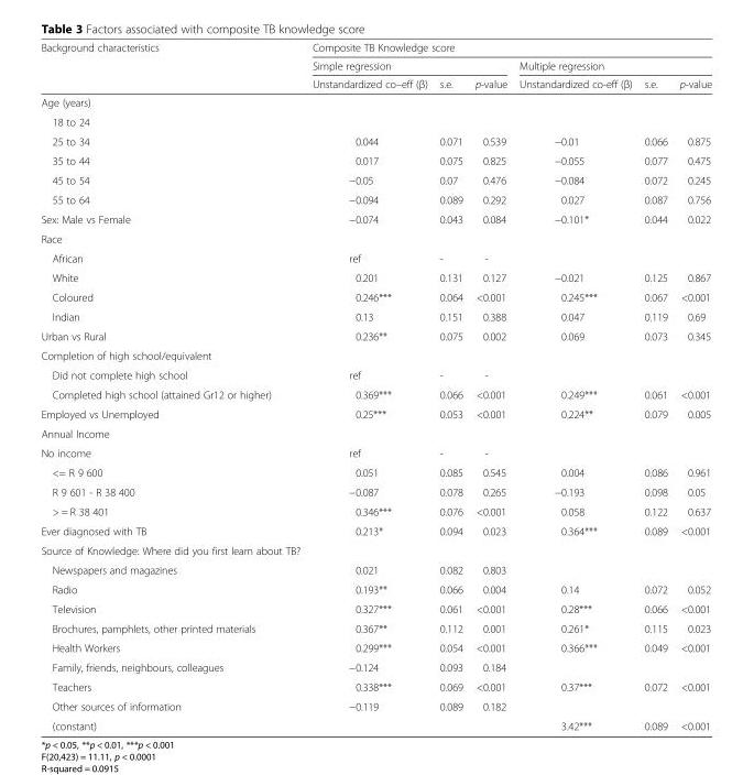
<table><thead><tr><td rowspan="3">Background characteristics</td><td colspan="6">Composite TB Knowledge score</td></tr><tr><td colspan="3">Simple regression</td><td colspan="3">Multiple regression</td></tr><tr><td>Unstandardized co–eff (β)</td><td>s.e.</td><td>p-value</td><td>Unstandardized co-eff (β)</td><td>s.e.</td><td>p-value</td></tr></thead><tbody><tr><td colspan="7">Age (years)</td></tr><tr><td colspan="7">18 to 24</td></tr><tr><td>25 to 34</td><td>0.044</td><td>0.071</td><td>0.539</td><td>−0.01</td><td>0.066</td><td>0.875</td></tr><tr><td>35 to 44</td><td>0.017</td><td>0.075</td><td>0.825</td><td>−0.055</td><td>0.077</td><td>0.475</td></tr><tr><td>45 to 54</td><td>−0.05</td><td>0.07</td><td>0.476</td><td>−0.084</td><td>0.072</td><td>0.245</td></tr><tr><td>55 to 64</td><td>−0.094</td><td>0.089</td><td>0.292</td><td>0.027</td><td>0.087</td><td>0.756</td></tr><tr><td>Sex: Male vs Female</td><td>−0.074</td><td>0.043</td><td>0.084</td><td>−0.101*</td><td>0.044</td><td>0.022</td></tr><tr><td colspan="7">Race</td></tr><tr><td>African</td><td>ref</td><td>-</td><td>-</td><td></td><td></td><td></td></tr><tr><td>White</td><td>0.201</td><td>0.131</td><td>0.127</td><td>−0.021</td><td>0.125</td><td>0.867</td></tr><tr><td>Coloured</td><td>0.246***</td><td>0.064</td><td>&lt;0.001</td><td>0.245***</td><td>0.067</td><td>&lt;0.001</td></tr><tr><td>Indian</td><td>0.13</td><td>0.151</td><td>0.388</td><td>0.047</td><td>0.119</td><td>0.69</td></tr><tr><td>Urban vs Rural</td><td>0.236**</td><td>0.075</td><td>0.002</td><td>0.069</td><td>0.073</td><td>0.345</td></tr><tr><td colspan="7">Completion of high school/equivalent</td></tr><tr><td>Did not complete high school</td><td>ref</td><td>-</td><td>-</td><td></td><td></td><td></td></tr><tr><td>Completed high school (attained Gr12 or higher)</td><td>0.369***</td><td>0.066</td><td>&lt;0.001</td><td>0.249***</td><td>0.061</td><td>&lt;0.001</td></tr><tr><td>Employed vs Unemployed</td><td>0.25***</td><td>0.053</td><td>&lt;0.001</td><td>0.224**</td><td>0.079</td><td>0.005</td></tr><tr><td colspan="7">Annual Income</td></tr><tr><td>No income</td><td>ref</td><td>-</td><td>-</td><td></td><td></td><td></td></tr><tr><td>&lt;= R 9 600</td><td>0.051</td><td>0.085</td><td>0.545</td><td>0.004</td><td>0.086</td><td>0.961</td></tr><tr><td>R 9 601 - R 38 400</td><td>−0.087</td><td>0.078</td><td>0.265</td><td>−0.193</td><td>0.098</td><td>0.05</td></tr><tr><td>&gt; = R 38 401</td><td>0.346***</td><td>0.076</td><td>&lt;0.001</td><td>0.058</td><td>0.122</td><td>0.637</td></tr><tr><td>Ever diagnosed with TB</td><td>0.213*</td><td>0.094</td><td>0.023</td><td>0.364***</td><td>0.089</td><td>&lt;0.001</td></tr><tr><td colspan="7">Source of Knowledge: Where did you first learn about TB?</td></tr><tr><td>Newspapers and magazines</td><td>0.021</td><td>0.082</td><td>0.803</td><td></td><td></td><td></td></tr><tr><td>Radio</td><td>0.193**</td><td>0.066</td><td>0.004</td><td>0.14</td><td>0.072</td><td>0.052</td></tr><tr><td>Television</td><td>0.327***</td><td>0.061</td><td>&lt;0.001</td><td>0.28***</td><td>0.066</td><td>&lt;0.001</td></tr><tr><td>Brochures, pamphlets, other printed materials</td><td>0.367**</td><td>0.112</td><td>0.001</td><td>0.261*</td><td>0.115</td><td>0.023</td></tr><tr><td>Health Workers</td><td>0.299***</td><td>0.054</td><td>&lt;0.001</td><td>0.366***</td><td>0.049</td><td>&lt;0.001</td></tr><tr><td>Family, friends, neighbours, colleagues</td><td>−0.124</td><td>0.093</td><td>0.184</td><td></td><td></td><td></td></tr><tr><td>Teachers</td><td>0.338***</td><td>0.069</td><td>&lt;0.001</td><td>0.37***</td><td>0.072</td><td>&lt;0.001</td></tr><tr><td>Other sources of information</td><td>−0.119</td><td>0.089</td><td>0.182</td><td></td><td></td><td></td></tr><tr><td>(constant)</td><td></td><td></td><td></td><td>3.42***</td><td>0.089</td><td>&lt;0.001</td></tr></tbody></table>